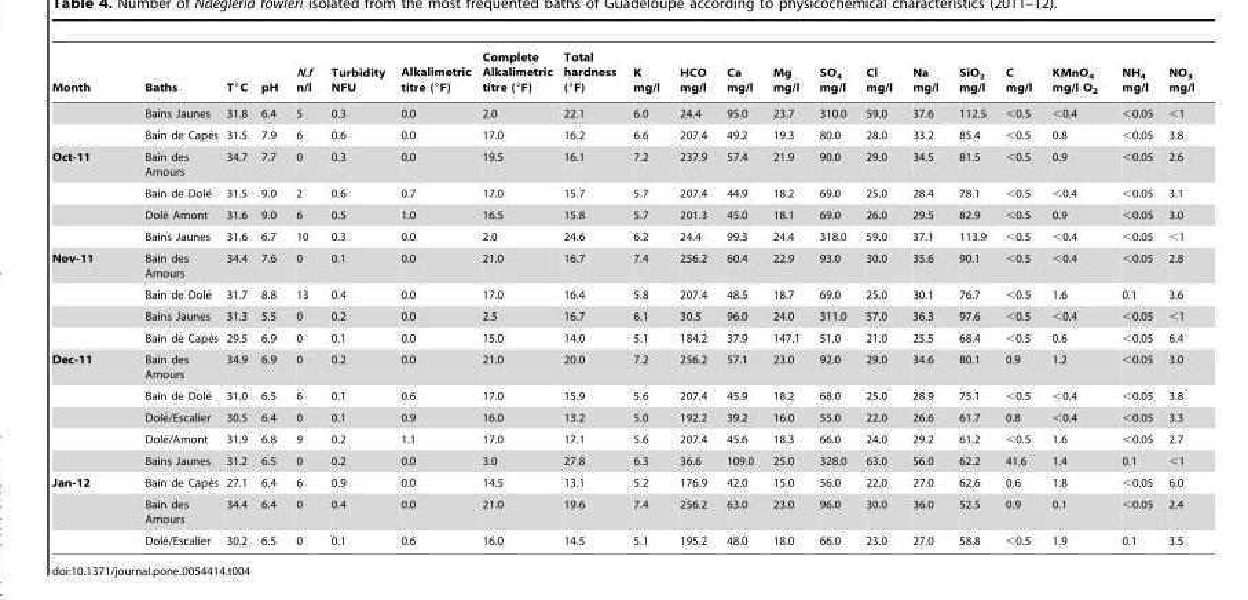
<table><thead><tr><td>Month</td><td>Baths</td><td>T°C</td><td>pH</td><td>N.f n/l</td><td>Turbidity NFU</td><td>Alkalimetric titre (°F)</td><td>Complete Alkalimetric titre (°F)</td><td>Total hardness (°F)</td><td>K mg/l</td><td>HCO mg/l</td><td>Ca mg/l</td><td>Mg mg/l</td><td>SO<sub>4</sub> mg/l</td><td>Cl mg/l</td><td>Na mg/l</td><td>SiO<sub>2</sub> mg/l</td><td>C mg/l</td><td>KMnO<sub>4</sub> mg/l O<sub>2</sub></td><td>NH<sub>4</sub> mg/l</td><td>NO<sub>3</sub> mg/l</td></tr></thead><tbody><tr><td></td><td>Bains Jaunes</td><td>31.8</td><td>6.4</td><td>5</td><td>0.3</td><td>0.0</td><td>2.0</td><td>22.1</td><td>6.0</td><td>24.4</td><td>95.0</td><td>23.7</td><td>310.0</td><td>59.0</td><td>37.6</td><td>112.5</td><td>&lt;0.5</td><td>&lt;0.4</td><td>&lt;0.05</td><td>&lt;1</td></tr><tr><td></td><td>Bain de Cape`s</td><td>31.5</td><td>7.9</td><td>6</td><td>0.6</td><td>0.0</td><td>17.0</td><td>16.2</td><td>6.6</td><td>207.4</td><td>49.2</td><td>19.3</td><td>80.0</td><td>28.0</td><td>33.2</td><td>85.4</td><td>&lt;0.5</td><td>0.8</td><td>&lt;0.05</td><td>3.8</td></tr><tr><td rowspan="4">Oct-11</td><td>Bain des Amours</td><td>34.7</td><td>7.7</td><td>0</td><td>0.3</td><td>0.0</td><td>19.5</td><td>16.1</td><td>7.2</td><td>237.9</td><td>57.4</td><td>21.9</td><td>90.0</td><td>29.0</td><td>34.5</td><td>81.5</td><td>&lt;0.5</td><td>0.9</td><td>&lt;0.05</td><td>2.6</td></tr><tr><td>Bain de Dole´</td><td>31.5</td><td>9.0</td><td>2</td><td>0.6</td><td>0.7</td><td>17.0</td><td>15.7</td><td>5.7</td><td>207.4</td><td>44.9</td><td>18.2</td><td>69.0</td><td>25.0</td><td>28.4</td><td>78.1</td><td>&lt;0.5</td><td>&lt;0.4</td><td>&lt;0.05</td><td>3.1</td></tr><tr><td>Dole´ Amont</td><td>31.6</td><td>9.0</td><td>6</td><td>0.5</td><td>1.0</td><td>16.5</td><td>15.8</td><td>5.7</td><td>201.3</td><td>45.0</td><td>18.1</td><td>69.0</td><td>26.0</td><td>29.5</td><td>82.9</td><td>&lt;0.5</td><td>0.9</td><td>&lt;0.05</td><td>3.0</td></tr><tr><td>Bains Jaunes</td><td>31.6</td><td>6.7</td><td>10</td><td>0.3</td><td>0.0</td><td>2.0</td><td>24.6</td><td>6.2</td><td>24.4</td><td>99.3</td><td>24.4</td><td>318.0</td><td>59.0</td><td>37.1</td><td>113.9</td><td>&lt;0.5</td><td>&lt;0.4</td><td>&lt;0.05</td><td>&lt;1</td></tr><tr><td rowspan="4">Nov-11</td><td>Bain des Amours</td><td>34.4</td><td>7.6</td><td>0</td><td>0.1</td><td>0.0</td><td>21.0</td><td>16.7</td><td>7.4</td><td>256.2</td><td>60.4</td><td>22.9</td><td>93.0</td><td>30.0</td><td>35.6</td><td>90.1</td><td>&lt;0.5</td><td>&lt;0.4</td><td>&lt;0.05</td><td>2.8</td></tr><tr><td>Bain de Dole´</td><td>31.7</td><td>8.8</td><td>13</td><td>0.4</td><td>0.0</td><td>17.0</td><td>16.4</td><td>5.8</td><td>207.4</td><td>48.5</td><td>18.7</td><td>69.0</td><td>25.0</td><td>30.1</td><td>76.7</td><td>&lt;0.5</td><td>1.6</td><td>0.1</td><td>3.6</td></tr><tr><td>Bains Jaunes</td><td>31.3</td><td>5.5</td><td>0</td><td>0.2</td><td>0.0</td><td>2.5</td><td>16.7</td><td>6.1</td><td>30.5</td><td>96.0</td><td>24.0</td><td>311.0</td><td>57.0</td><td>36.3</td><td>97.6</td><td>&lt;0.5</td><td>&lt;0.4</td><td>&lt;0.05</td><td>&lt;1</td></tr><tr><td>Bain de Cape`s</td><td>29.5</td><td>6.9</td><td>0</td><td>0.1</td><td>0.0</td><td>15.0</td><td>14.0</td><td>5.1</td><td>184.2</td><td>37.9</td><td>147.1</td><td>51.0</td><td>21.0</td><td>25.5</td><td>68.4</td><td>&lt;0.5</td><td>0.6</td><td>&lt;0.05</td><td>6.4</td></tr><tr><td rowspan="5">Dec-11</td><td>Bain des Amours</td><td>34.9</td><td>6.9</td><td>0</td><td>0.2</td><td>0.0</td><td>21.0</td><td>20.0</td><td>7.2</td><td>256.2</td><td>57.1</td><td>23.0</td><td>92.0</td><td>29.0</td><td>34.6</td><td>80.1</td><td>0.9</td><td>1.2</td><td>&lt;0.05</td><td>3.0</td></tr><tr><td>Bain de Dole´</td><td>31.0</td><td>6.5</td><td>6</td><td>0.1</td><td>0.6</td><td>17.0</td><td>15.9</td><td>5.6</td><td>207.4</td><td>45.9</td><td>18.2</td><td>68.0</td><td>25.0</td><td>28.9</td><td>75.1</td><td>&lt;0.5</td><td>&lt;0.4</td><td>&lt;0.05</td><td>3.8</td></tr><tr><td>Dole´/Escalier</td><td>30.5</td><td>6.4</td><td>0</td><td>0.1</td><td>0.9</td><td>16.0</td><td>13.2</td><td>5.0</td><td>192.2</td><td>39.2</td><td>16.0</td><td>55.0</td><td>22.0</td><td>26.6</td><td>61.7</td><td>0.8</td><td>&lt;0.4</td><td>&lt;0.05</td><td>3.3</td></tr><tr><td>Dole´/Amont</td><td>31.9</td><td>6.8</td><td>9</td><td>0.2</td><td>1.1</td><td>17.0</td><td>17.1</td><td>5.6</td><td>207.4</td><td>45.6</td><td>18.3</td><td>66.0</td><td>24.0</td><td>29.2</td><td>61.2</td><td>&lt;0.5</td><td>1.6</td><td>&lt;0.05</td><td>2.7</td></tr><tr><td>Bains Jaunes</td><td>31.2</td><td>6.5</td><td>0</td><td>0.2</td><td>0.0</td><td>3.0</td><td>27.8</td><td>6.3</td><td>36.6</td><td>109.0</td><td>25.0</td><td>328.0</td><td>63.0</td><td>56.0</td><td>62.2</td><td>41.6</td><td>1.4</td><td>0.1</td><td>&lt;1</td></tr><tr><td rowspan="3">Jan-12</td><td>Bain de Cape`s</td><td>27.1</td><td>6.4</td><td>6</td><td>0.9</td><td>0.0</td><td>14.5</td><td>13.1</td><td>5.2</td><td>176.9</td><td>42.0</td><td>15.0</td><td>56.0</td><td>22.0</td><td>27.0</td><td>62.6</td><td>0.6</td><td>1.8</td><td>&lt;0.05</td><td>6.0</td></tr><tr><td>Bain des Amours</td><td>34.4</td><td>6.4</td><td>0</td><td>0.4</td><td>0.0</td><td>21.0</td><td>19.6</td><td>7.4</td><td>256.2</td><td>63.0</td><td>23.0</td><td>96.0</td><td>30.0</td><td>36.0</td><td>52.5</td><td>0.9</td><td>0.1</td><td>&lt;0.05</td><td>2.4</td></tr><tr><td>Dole´/Escalier</td><td>30.2</td><td>6.5</td><td>0</td><td>0.1</td><td>0.6</td><td>16.0</td><td>14.5</td><td>5.1</td><td>195.2</td><td>48.0</td><td>18.0</td><td>66.0</td><td>23.0</td><td>27.0</td><td>58.8</td><td>&lt;0.5</td><td>1.9</td><td>0.1</td><td>3.5</td></tr></tbody></table>